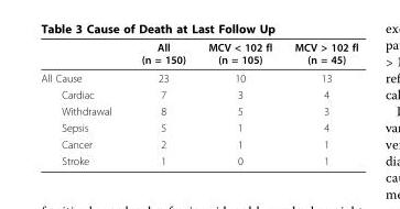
<table><thead><tr><td></td><td>All (n = 150)</td><td>MCV &lt; 102 fl (n = 105)</td><td>MCV &gt; 102 fl (n = 45)</td></tr></thead><tbody><tr><td>All Cause</td><td>23</td><td>10</td><td>13</td></tr><tr><td>Cardiac</td><td>7</td><td>3</td><td>4</td></tr><tr><td>Withdrawal</td><td>8</td><td>5</td><td>3</td></tr><tr><td>Sepsis</td><td>5</td><td>1</td><td>4</td></tr><tr><td>Cancer</td><td>2</td><td>1</td><td>1</td></tr><tr><td>Stroke</td><td>1</td><td>0</td><td>1</td></tr></tbody></table>